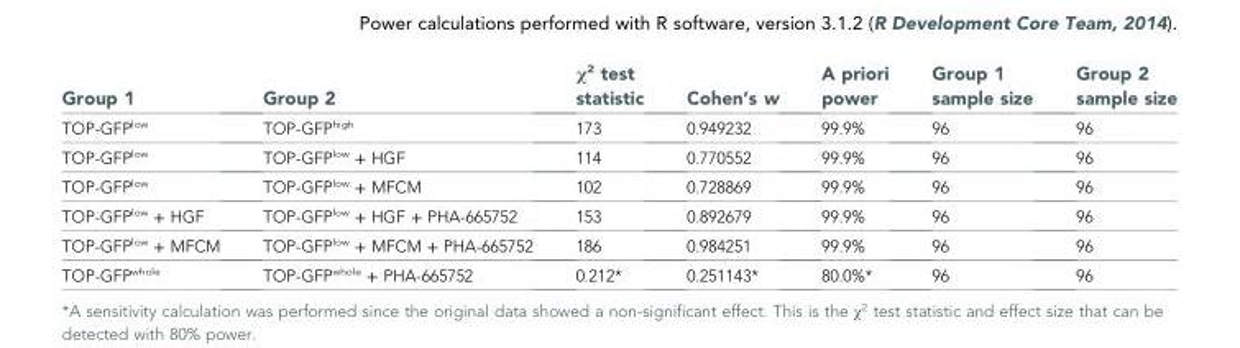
<table><thead><tr><td>Group 1</td><td>Group 2</td><td>χ<sup>2</sup> test statistic</td><td>Cohen’s w</td><td>A priori power</td><td>Group 1 sample size</td><td>Group 2 sample size</td></tr></thead><tbody><tr><td>TOP-GFP<sup>low</sup></td><td>TOP-GFP<sup>high</sup></td><td>173</td><td>0.949232</td><td>99.9%</td><td>96</td><td>96</td></tr><tr><td>TOP-GFP<sup>low</sup></td><td>TOP-GFP<sup>low</sup> + HGF</td><td>114</td><td>0.770552</td><td>99.9%</td><td>96</td><td>96</td></tr><tr><td>TOP-GFP<sup>low</sup></td><td>TOP-GFP<sup>low</sup> + MFCM</td><td>102</td><td>0.728869</td><td>99.9%</td><td>96</td><td>96</td></tr><tr><td>TOP-GFP<sup>low</sup> + HGF</td><td>TOP-GFP<sup>low</sup> + HGF + PHA-665752</td><td>153</td><td>0.892679</td><td>99.9%</td><td>96</td><td>96</td></tr><tr><td>TOP-GFP<sup>low</sup> + MFCM</td><td>TOP-GFP<sup>low</sup> + MFCM + PHA-665752</td><td>186</td><td>0.984251</td><td>99.9%</td><td>96</td><td>96</td></tr><tr><td>TOP-GFP<sup>whole</sup></td><td>TOP-GFP<sup>whole</sup> + PHA-665752</td><td>0.212*</td><td>0.251143*</td><td>80.0%*</td><td>96</td><td>96</td></tr></tbody></table>